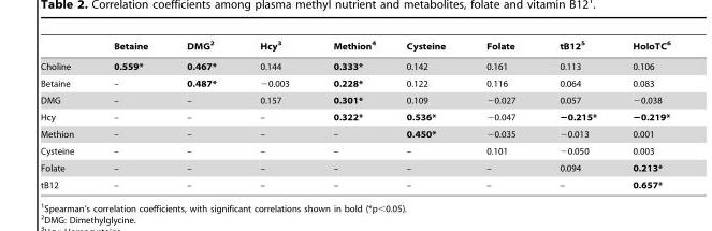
<table><thead><tr><td></td><td>Betaine</td><td>DMG<sup>2</sup></td><td>Hcy<sup>3</sup></td><td>Methion<sup>4</sup></td><td>Cysteine</td><td>Folate</td><td>tB12<sup>5</sup></td><td>HoloTC<sup>6</sup></td></tr></thead><tbody><tr><td>Choline</td><td>0.559*</td><td>0.467*</td><td>0.144</td><td>0.333*</td><td>0.142</td><td>0.161</td><td>0.113</td><td>0.106</td></tr><tr><td>Betaine</td><td>–</td><td>0.487*</td><td>−0.003</td><td>0.228*</td><td>0.122</td><td>0.116</td><td>0.064</td><td>0.083</td></tr><tr><td>DMG</td><td>–</td><td>–</td><td>0.157</td><td>0.301*</td><td>0.109</td><td>−0.027</td><td>0.057</td><td>−0.038</td></tr><tr><td>Hcy</td><td>–</td><td>–</td><td>–</td><td>0.322*</td><td>0.536*</td><td>−0.047</td><td>−0.215*</td><td>−0.219*</td></tr><tr><td>Methion</td><td>–</td><td>–</td><td>–</td><td>–</td><td>0.450*</td><td>−0.035</td><td>−0.013</td><td>0.001</td></tr><tr><td>Cysteine</td><td>–</td><td>–</td><td>–</td><td>–</td><td>–</td><td>0.101</td><td>−0.050</td><td>0.003</td></tr><tr><td>Folate</td><td>–</td><td>–</td><td>–</td><td>–</td><td>–</td><td>–</td><td>0.094</td><td>0.213*</td></tr><tr><td>tB12</td><td>–</td><td>–</td><td>–</td><td>–</td><td>–</td><td>–</td><td>–</td><td>0.657*</td></tr></tbody></table>